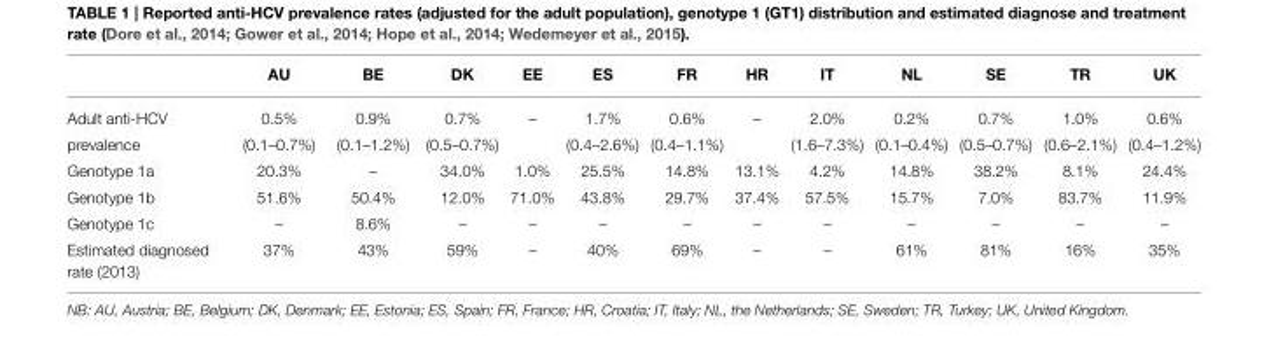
<table><thead><tr><td></td><td>AU</td><td>BE</td><td>DK</td><td>EE</td><td>ES</td><td>FR</td><td>HR</td><td>IT</td><td>NL</td><td>SE</td><td>TR</td><td>UK</td></tr></thead><tbody><tr><td>Adult anti-HCV</td><td>0.5%</td><td>0.9%</td><td>0.7%</td><td>–</td><td>1.7%</td><td>0.6%</td><td>–</td><td>2.0%</td><td>0.2%</td><td>0.7%</td><td>1.0%</td><td>0.6%</td></tr><tr><td>prevalence</td><td>(0.1–0.7%)</td><td>(0.1–1.2%)</td><td>(0.5–0.7%)</td><td></td><td>(0.4–2.6%)</td><td>(0.4–1.1%)</td><td></td><td>(1.6–7.3%)</td><td>(0.1–0.4%)</td><td>(0.5–0.7%)</td><td>(0.6–2.1%)</td><td>(0.4–1.2%)</td></tr><tr><td>Genotype 1a</td><td>20.3%</td><td>–</td><td>34.0%</td><td>1.0%</td><td>25.5%</td><td>14.8%</td><td>13.1%</td><td>4.2%</td><td>14.8%</td><td>38.2%</td><td>8.1%</td><td>24.4%</td></tr><tr><td>Genotype 1b</td><td>51.6%</td><td>50.4%</td><td>12.0%</td><td>71.0%</td><td>43.8%</td><td>29.7%</td><td>37.4%</td><td>57.5%</td><td>15.7%</td><td>7.0%</td><td>83.7%</td><td>11.9%</td></tr><tr><td>Genotype 1c</td><td>–</td><td>8.6%</td><td>–</td><td>–</td><td>–</td><td>–</td><td>–</td><td>–</td><td>–</td><td>–</td><td>–</td><td>–</td></tr><tr><td>Estimated diagnosed rate (2013)</td><td>37%</td><td>43%</td><td>59%</td><td>–</td><td>40%</td><td>69%</td><td>–</td><td>–</td><td>61%</td><td>81%</td><td>16%</td><td>35%</td></tr></tbody></table>